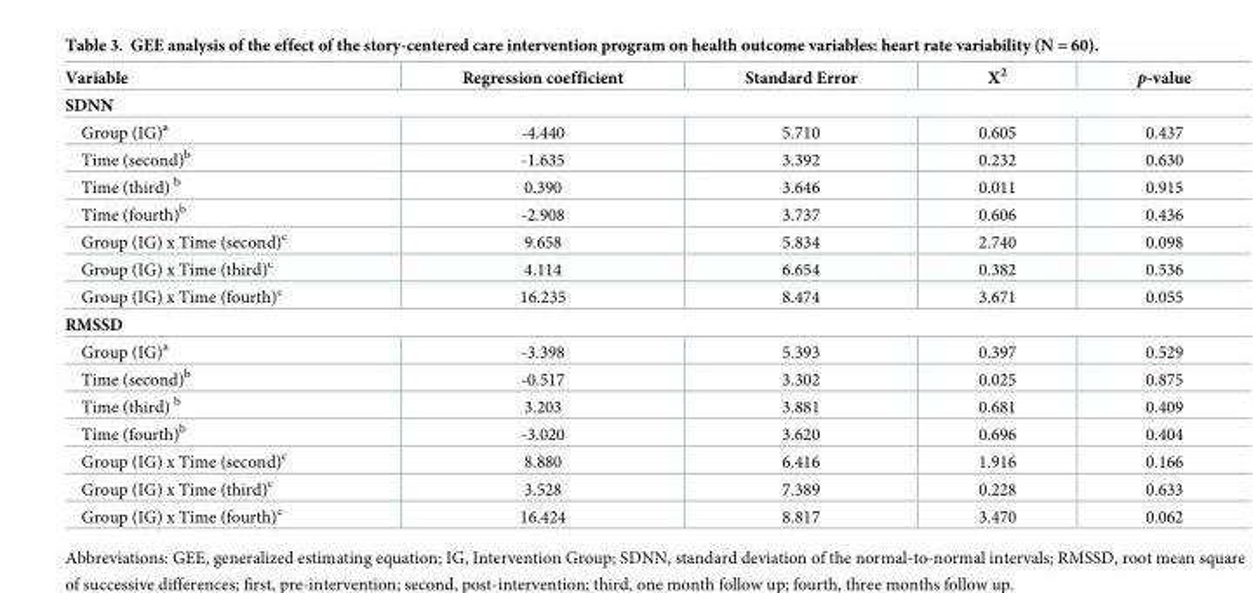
<table><thead><tr><td>Variable</td><td>Regression coefficient</td><td>Standard Error</td><td>X<sup>2</sup></td><td>p-value</td></tr></thead><tbody><tr><td colspan="5">SDNN</td></tr><tr><td>Group (IG)<sup>a</sup></td><td>-4.440</td><td>5.710</td><td>0.605</td><td>0.437</td></tr><tr><td>Time (second)<sup>b</sup></td><td>-1.635</td><td>3.392</td><td>0.232</td><td>0.630</td></tr><tr><td>Time (third) <sup>b</sup></td><td>0.390</td><td>3.646</td><td>0.011</td><td>0.915</td></tr><tr><td>Time (fourth)<sup>b</sup></td><td>-2.908</td><td>3.737</td><td>0.606</td><td>0.436</td></tr><tr><td>Group (IG) x Time (second)<sup>c</sup></td><td>9.658</td><td>5.834</td><td>2.740</td><td>0.098</td></tr><tr><td>Group (IG) x Time (third)<sup>c</sup></td><td>4.114</td><td>6.654</td><td>0.382</td><td>0.536</td></tr><tr><td>Group (IG) x Time (fourth)<sup>c</sup></td><td>16.235</td><td>8.474</td><td>3.671</td><td>0.055</td></tr><tr><td colspan="5">RMSSD</td></tr><tr><td>Group (IG)<sup>a</sup></td><td>-3.398</td><td>5.393</td><td>0.397</td><td>0.529</td></tr><tr><td>Time (second)<sup>b</sup></td><td>-0.517</td><td>3.302</td><td>0.025</td><td>0.875</td></tr><tr><td>Time (third) <sup>b</sup></td><td>3.203</td><td>3.881</td><td>0.681</td><td>0.409</td></tr><tr><td>Time (fourth)<sup>b</sup></td><td>-3.020</td><td>3.620</td><td>0.696</td><td>0.404</td></tr><tr><td>Group (IG) x Time (second)<sup>c</sup></td><td>8.880</td><td>6.416</td><td>1.916</td><td>0.166</td></tr><tr><td>Group (IG) x Time (third)<sup>c</sup></td><td>3.528</td><td>7.389</td><td>0.228</td><td>0.633</td></tr><tr><td>Group (IG) x Time (fourth)<sup>c</sup></td><td>16.424</td><td>8.817</td><td>3.470</td><td>0.062</td></tr></tbody></table>